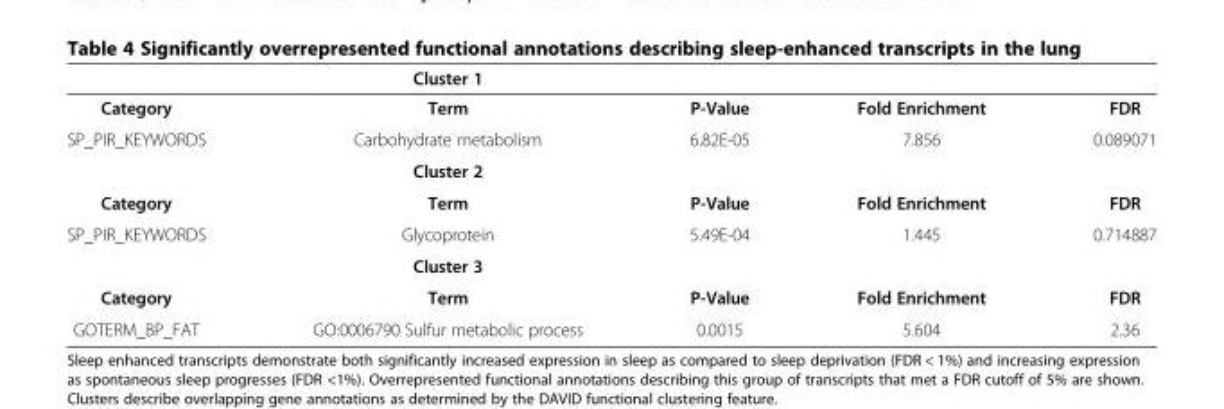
<table><thead><tr><td></td><td>Cluster 1</td><td></td><td></td><td></td></tr></thead><tbody><tr><td>Category</td><td>Term</td><td>P-Value</td><td>Fold Enrichment</td><td>FDR</td></tr><tr><td rowspan="2">SP_PIR_KEYWORDS</td><td>Carbohydrate metabolism</td><td>6.82E-05</td><td>7.856</td><td>0.089071</td></tr><tr><td>Cluster 2</td><td></td><td></td><td></td></tr><tr><td>Category</td><td>Term</td><td>P-Value</td><td>Fold Enrichment</td><td>FDR</td></tr><tr><td rowspan="2">SP_PIR_KEYWORDS</td><td>Glycoprotein</td><td>5.49E-04</td><td>1.445</td><td>0.714887</td></tr><tr><td>Cluster 3</td><td></td><td></td><td></td></tr><tr><td>Category</td><td>Term</td><td>P-Value</td><td>Fold Enrichment</td><td>FDR</td></tr><tr><td>GOTERM_BP_FAT</td><td>GO:0006790 Sulfur metabolic process</td><td>0.0015</td><td>5.604</td><td>2.36</td></tr></tbody></table>